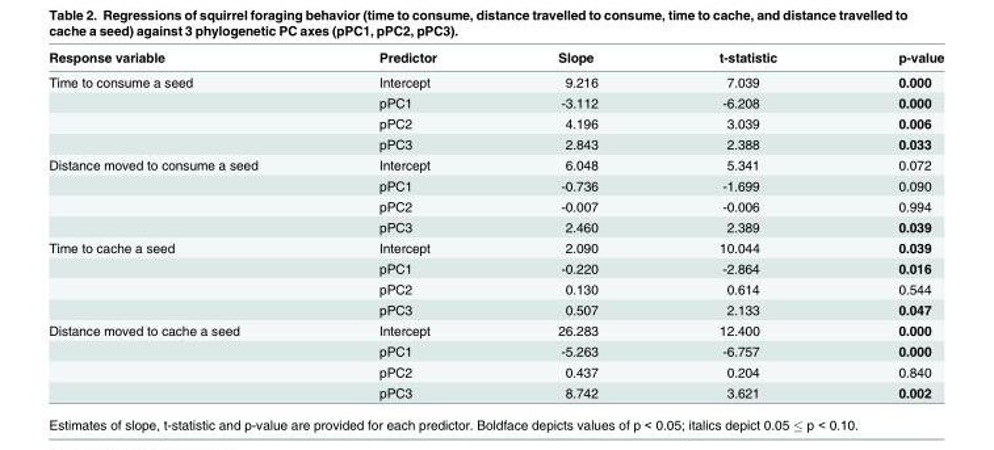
<table><thead><tr><td>Response variable</td><td>Predictor</td><td>Slope</td><td>t-statistic</td><td>p-value</td></tr></thead><tbody><tr><td rowspan="4">Time to consume a seed</td><td>Intercept</td><td>9.216</td><td>7.039</td><td>0.000</td></tr><tr><td>pPC1</td><td>-3.112</td><td>-6.208</td><td>0.000</td></tr><tr><td>pPC2</td><td>4.196</td><td>3.039</td><td>0.006</td></tr><tr><td>pPC3</td><td>2.843</td><td>2.388</td><td>0.033</td></tr><tr><td rowspan="4">Distance moved to consume a seed</td><td>Intercept</td><td>6.048</td><td>5.341</td><td>0.072</td></tr><tr><td>pPC1</td><td>-0.736</td><td>-1.699</td><td>0.090</td></tr><tr><td>pPC2</td><td>-0.007</td><td>-0.006</td><td>0.994</td></tr><tr><td>pPC3</td><td>2.460</td><td>2.389</td><td>0.039</td></tr><tr><td rowspan="4">Time to cache a seed</td><td>Intercept</td><td>2.090</td><td>10.044</td><td>0.039</td></tr><tr><td>pPC1</td><td>-0.220</td><td>-2.864</td><td>0.016</td></tr><tr><td>pPC2</td><td>0.130</td><td>0.614</td><td>0.544</td></tr><tr><td>pPC3</td><td>0.507</td><td>2.133</td><td>0.047</td></tr><tr><td rowspan="4">Distance moved to cache a seed</td><td>Intercept</td><td>26.283</td><td>12.400</td><td>0.000</td></tr><tr><td>pPC1</td><td>-5.263</td><td>-6.757</td><td>0.000</td></tr><tr><td>pPC2</td><td>0.437</td><td>0.204</td><td>0.840</td></tr><tr><td>pPC3</td><td>8.742</td><td>3.621</td><td>0.002</td></tr></tbody></table>